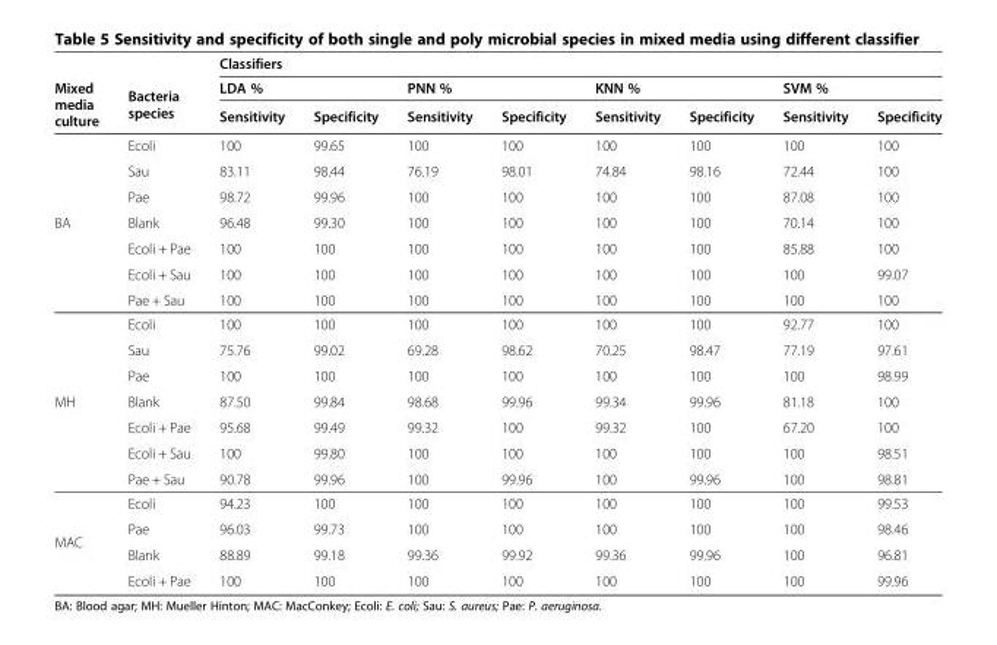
<table><thead><tr><td rowspan="3">Mixed media culture</td><td rowspan="3">Bacteria species</td><td colspan="8">Classifiers</td></tr><tr><td colspan="2">LDA %</td><td colspan="2">PNN %</td><td colspan="2">KNN %</td><td colspan="2">SVM %</td></tr><tr><td>Sensitivity</td><td>Specificity</td><td>Sensitivity</td><td>Specificity</td><td>Sensitivity</td><td>Specificity</td><td>Sensitivity</td><td>Specificity</td></tr></thead><tbody><tr><td rowspan="7">BA</td><td>Ecoli</td><td>100</td><td>99.65</td><td>100</td><td>100</td><td>100</td><td>100</td><td>100</td><td>100</td></tr><tr><td>Sau</td><td>83.11</td><td>98.44</td><td>76.19</td><td>98.01</td><td>74.84</td><td>98.16</td><td>72.44</td><td>100</td></tr><tr><td>Pae</td><td>98.72</td><td>99.96</td><td>100</td><td>100</td><td>100</td><td>100</td><td>87.08</td><td>100</td></tr><tr><td>Blank</td><td>96.48</td><td>99.30</td><td>100</td><td>100</td><td>100</td><td>100</td><td>70.14</td><td>100</td></tr><tr><td>Ecoli + Pae</td><td>100</td><td>100</td><td>100</td><td>100</td><td>100</td><td>100</td><td>85.88</td><td>100</td></tr><tr><td>Ecoli + Sau</td><td>100</td><td>100</td><td>100</td><td>100</td><td>100</td><td>100</td><td>100</td><td>99.07</td></tr><tr><td>Pae + Sau</td><td>100</td><td>100</td><td>100</td><td>100</td><td>100</td><td>100</td><td>100</td><td>100</td></tr><tr><td rowspan="7">MH</td><td>Ecoli</td><td>100</td><td>100</td><td>100</td><td>100</td><td>100</td><td>100</td><td>92.77</td><td>100</td></tr><tr><td>Sau</td><td>75.76</td><td>99.02</td><td>69.28</td><td>98.62</td><td>70.25</td><td>98.47</td><td>77.19</td><td>97.61</td></tr><tr><td>Pae</td><td>100</td><td>100</td><td>100</td><td>100</td><td>100</td><td>100</td><td>100</td><td>98.99</td></tr><tr><td>Blank</td><td>87.50</td><td>99.84</td><td>98.68</td><td>99.96</td><td>99.34</td><td>99.96</td><td>81.18</td><td>100</td></tr><tr><td>Ecoli + Pae</td><td>95.68</td><td>99.49</td><td>99.32</td><td>100</td><td>99.32</td><td>100</td><td>67.20</td><td>100</td></tr><tr><td>Ecoli + Sau</td><td>100</td><td>99.80</td><td>100</td><td>100</td><td>100</td><td>100</td><td>100</td><td>98.51</td></tr><tr><td>Pae + Sau</td><td>90.78</td><td>99.96</td><td>100</td><td>99.96</td><td>100</td><td>99.96</td><td>100</td><td>98.81</td></tr><tr><td rowspan="4">MAC</td><td>Ecoli</td><td>94.23</td><td>100</td><td>100</td><td>100</td><td>100</td><td>100</td><td>100</td><td>99.53</td></tr><tr><td>Pae</td><td>96.03</td><td>99.73</td><td>100</td><td>100</td><td>100</td><td>100</td><td>100</td><td>98.46</td></tr><tr><td>Blank</td><td>88.89</td><td>99.18</td><td>99.36</td><td>99.92</td><td>99.36</td><td>99.96</td><td>100</td><td>96.81</td></tr><tr><td>Ecoli + Pae</td><td>100</td><td>100</td><td>100</td><td>100</td><td>100</td><td>100</td><td>100</td><td>99.96</td></tr></tbody></table>